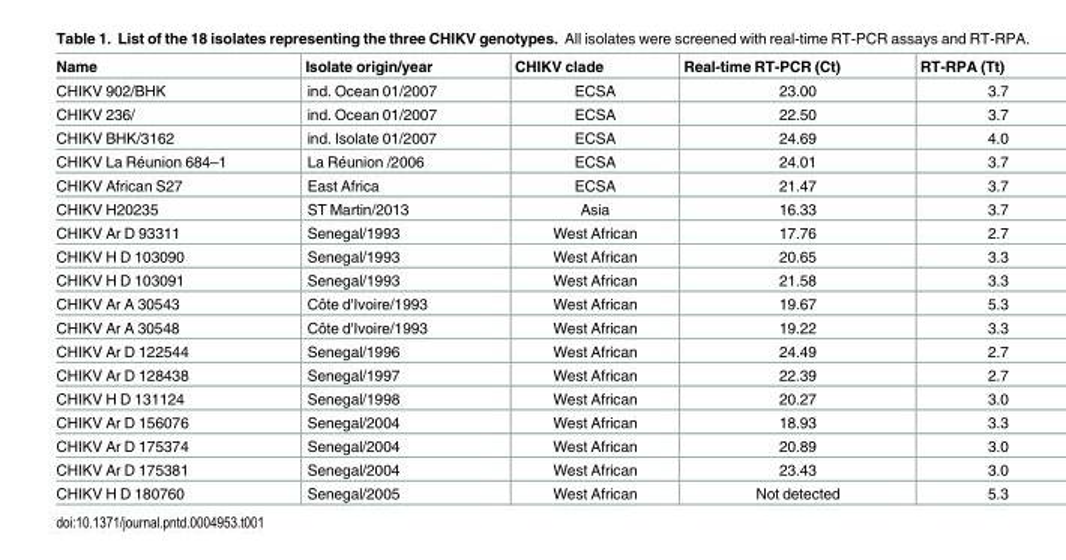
<table><thead><tr><td>Name</td><td>Isolate origin/year</td><td>CHIKV clade</td><td>Real-time RT-PCR (Ct)</td><td>RT-RPA (Tt)</td></tr></thead><tbody><tr><td>CHIKV 902/BHK</td><td>ind. Ocean 01/2007</td><td>ECSA</td><td>23.00</td><td>3.7</td></tr><tr><td>CHIKV 236/</td><td>ind. Ocean 01/2007</td><td>ECSA</td><td>22.50</td><td>3.7</td></tr><tr><td>CHIKV BHK/3162</td><td>ind. Isolate 01/2007</td><td>ECSA</td><td>24.69</td><td>4.0</td></tr><tr><td>CHIKV La Réunion 684–1</td><td>La Réunion /2006</td><td>ECSA</td><td>24.01</td><td>3.7</td></tr><tr><td>CHIKV African S27</td><td>East Africa</td><td>ECSA</td><td>21.47</td><td>3.7</td></tr><tr><td>CHIKV H20235</td><td>ST Martin/2013</td><td>Asia</td><td>16.33</td><td>3.7</td></tr><tr><td>CHIKV Ar D 93311</td><td>Senegal/1993</td><td>West African</td><td>17.76</td><td>2.7</td></tr><tr><td>CHIKV H D 103090</td><td>Senegal/1993</td><td>West African</td><td>20.65</td><td>3.3</td></tr><tr><td>CHIKV H D 103091</td><td>Senegal/1993</td><td>West African</td><td>21.58</td><td>3.3</td></tr><tr><td>CHIKV Ar A 30543</td><td>Côte d&#x27;Ivoire/1993</td><td>West African</td><td>19.67</td><td>5.3</td></tr><tr><td>CHIKV Ar A 30548</td><td>Côte d&#x27;Ivoire/1993</td><td>West African</td><td>19.22</td><td>3.3</td></tr><tr><td>CHIKV Ar D 122544</td><td>Senegal/1996</td><td>West African</td><td>24.49</td><td>2.7</td></tr><tr><td>CHIKV Ar D 128438</td><td>Senegal/1997</td><td>West African</td><td>22.39</td><td>2.7</td></tr><tr><td>CHIKV H D 131124</td><td>Senegal/1998</td><td>West African</td><td>20.27</td><td>3.0</td></tr><tr><td>CHIKV Ar D 156076</td><td>Senegal/2004</td><td>West African</td><td>18.93</td><td>3.3</td></tr><tr><td>CHIKV Ar D 175374</td><td>Senegal/2004</td><td>West African</td><td>20.89</td><td>3.0</td></tr><tr><td>CHIKV Ar D 175381</td><td>Senegal/2004</td><td>West African</td><td>23.43</td><td>3.0</td></tr><tr><td>CHIKV H D 180760</td><td>Senegal/2005</td><td>West African</td><td>Not detected</td><td>5.3</td></tr></tbody></table>